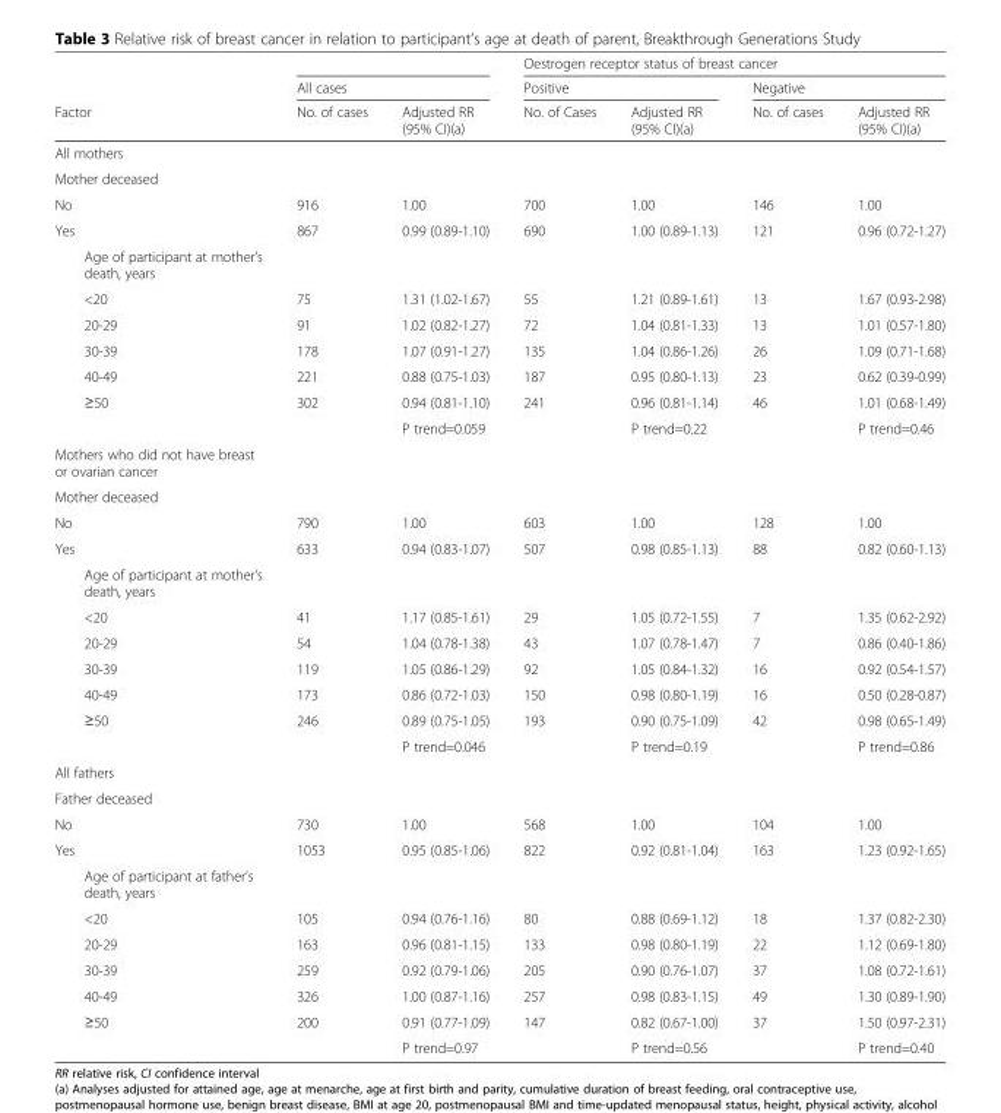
<table><thead><tr><td rowspan="3">Factor</td><td></td><td></td><td colspan="4">Oestrogen receptor status of breast cancer</td></tr><tr><td colspan="2">All cases</td><td colspan="2">Positive</td><td colspan="2">Negative</td></tr><tr><td>No. of cases</td><td>Adjusted RR (95% CI)(a)</td><td>No. of Cases</td><td>Adjusted RR (95% CI)(a)</td><td>No. of cases</td><td>Adjusted RR (95% CI)(a)</td></tr></thead><tbody><tr><td colspan="7">All mothers</td></tr><tr><td colspan="7">Mother deceased</td></tr><tr><td>No</td><td>916</td><td>1.00</td><td>700</td><td>1.00</td><td>146</td><td>1.00</td></tr><tr><td>Yes</td><td>867</td><td>0.99 (0.89-1.10)</td><td>690</td><td>1.00 (0.89-1.13)</td><td>121</td><td>0.96 (0.72-1.27)</td></tr><tr><td colspan="7">Age of participant at mother’s death, years</td></tr><tr><td>&lt;20</td><td>75</td><td>1.31 (1.02-1.67)</td><td>55</td><td>1.21 (0.89-1.61)</td><td>13</td><td>1.67 (0.93-2.98)</td></tr><tr><td>20-29</td><td>91</td><td>1.02 (0.82-1.27)</td><td>72</td><td>1.04 (0.81-1.33)</td><td>13</td><td>1.01 (0.57-1.80)</td></tr><tr><td>30-39</td><td>178</td><td>1.07 (0.91-1.27)</td><td>135</td><td>1.04 (0.86-1.26)</td><td>26</td><td>1.09 (0.71-1.68)</td></tr><tr><td>40-49</td><td>221</td><td>0.88 (0.75-1.03)</td><td>187</td><td>0.95 (0.80-1.13)</td><td>23</td><td>0.62 (0.39-0.99)</td></tr><tr><td rowspan="2">≥50</td><td>302</td><td>0.94 (0.81-1.10)</td><td>241</td><td>0.96 (0.81-1.14)</td><td>46</td><td>1.01 (0.68-1.49)</td></tr><tr><td></td><td>P trend=0.059</td><td></td><td>P trend=0.22</td><td></td><td>P trend=0.46</td></tr><tr><td colspan="7">Mothers who did not have breast or ovarian cancer</td></tr><tr><td colspan="7">Mother deceased</td></tr><tr><td>No</td><td>790</td><td>1.00</td><td>603</td><td>1.00</td><td>128</td><td>1.00</td></tr><tr><td>Yes</td><td>633</td><td>0.94 (0.83-1.07)</td><td>507</td><td>0.98 (0.85-1.13)</td><td>88</td><td>0.82 (0.60-1.13)</td></tr><tr><td colspan="7">Age of participant at mother’s death, years</td></tr><tr><td>&lt;20</td><td>41</td><td>1.17 (0.85-1.61)</td><td>29</td><td>1.05 (0.72-1.55)</td><td>7</td><td>1.35 (0.62-2.92)</td></tr><tr><td>20-29</td><td>54</td><td>1.04 (0.78-1.38)</td><td>43</td><td>1.07 (0.78-1.47)</td><td>7</td><td>0.86 (0.40-1.86)</td></tr><tr><td>30-39</td><td>119</td><td>1.05 (0.86-1.29)</td><td>92</td><td>1.05 (0.84-1.32)</td><td>16</td><td>0.92 (0.54-1.57)</td></tr><tr><td>40-49</td><td>173</td><td>0.86 (0.72-1.03)</td><td>150</td><td>0.98 (0.80-1.19)</td><td>16</td><td>0.50 (0.28-0.87)</td></tr><tr><td rowspan="2">≥50</td><td>246</td><td>0.89 (0.75-1.05)</td><td>193</td><td>0.90 (0.75-1.09)</td><td>42</td><td>0.98 (0.65-1.49)</td></tr><tr><td></td><td>P trend=0.046</td><td></td><td>P trend=0.19</td><td></td><td>P trend=0.86</td></tr><tr><td colspan="7">All fathers</td></tr><tr><td colspan="7">Father deceased</td></tr><tr><td>No</td><td>730</td><td>1.00</td><td>568</td><td>1.00</td><td>104</td><td>1.00</td></tr><tr><td>Yes</td><td>1053</td><td>0.95 (0.85-1.06)</td><td>822</td><td>0.92 (0.81-1.04)</td><td>163</td><td>1.23 (0.92-1.65)</td></tr><tr><td colspan="7">Age of participant at father’s death, years</td></tr><tr><td>&lt;20</td><td>105</td><td>0.94 (0.76-1.16)</td><td>80</td><td>0.88 (0.69-1.12)</td><td>18</td><td>1.37 (0.82-2.30)</td></tr><tr><td>20-29</td><td>163</td><td>0.96 (0.81-1.15)</td><td>133</td><td>0.98 (0.80-1.19)</td><td>22</td><td>1.12 (0.69-1.80)</td></tr><tr><td>30-39</td><td>259</td><td>0.92 (0.79-1.06)</td><td>205</td><td>0.90 (0.76-1.07)</td><td>37</td><td>1.08 (0.72-1.61)</td></tr><tr><td>40-49</td><td>326</td><td>1.00 (0.87-1.16)</td><td>257</td><td>0.98 (0.83-1.15)</td><td>49</td><td>1.30 (0.89-1.90)</td></tr><tr><td rowspan="2">≥50</td><td>200</td><td>0.91 (0.77-1.09)</td><td>147</td><td>0.82 (0.67-1.00)</td><td>37</td><td>1.50 (0.97-2.31)</td></tr><tr><td></td><td>P trend=0.97</td><td></td><td>P trend=0.56</td><td></td><td>P trend=0.40</td></tr></tbody></table>